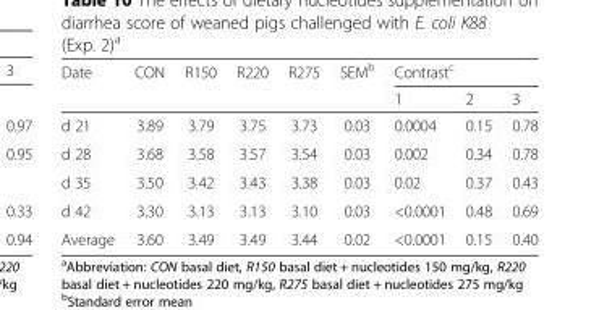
<table><thead><tr><td rowspan="2">Date</td><td rowspan="2">CON</td><td rowspan="2">R150</td><td rowspan="2">R220</td><td rowspan="2">R275</td><td rowspan="2">SEM<sup>b</sup></td><td colspan="3">Contrast<sup>c</sup></td></tr><tr><td>1</td><td>2</td><td>3</td></tr></thead><tbody><tr><td>d 21</td><td>3.89</td><td>3.79</td><td>3.75</td><td>3.73</td><td>0.03</td><td>0.0004</td><td>0.15</td><td>0.78</td></tr><tr><td>d 28</td><td>3.68</td><td>3.58</td><td>3.57</td><td>3.54</td><td>0.03</td><td>0.002</td><td>0.34</td><td>0.78</td></tr><tr><td>d 35</td><td>3.50</td><td>3.42</td><td>3.43</td><td>3.38</td><td>0.03</td><td>0.02</td><td>0.37</td><td>0.43</td></tr><tr><td>d 42</td><td>3.30</td><td>3.13</td><td>3.13</td><td>3.10</td><td>0.03</td><td>&lt;0.0001</td><td>0.48</td><td>0.69</td></tr><tr><td>Average</td><td>3.60</td><td>3.49</td><td>3.49</td><td>3.44</td><td>0.02</td><td>&lt;0.0001</td><td>0.15</td><td>0.40</td></tr></tbody></table>